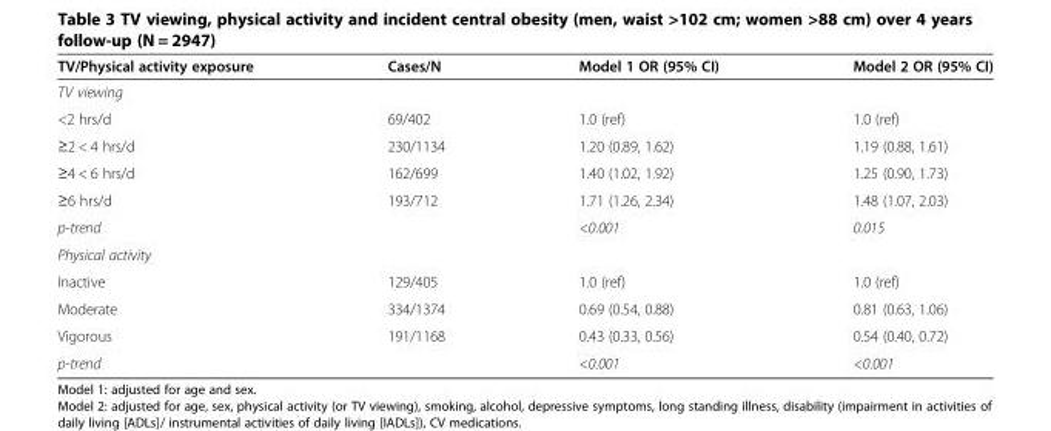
<table><thead><tr><td>TV/Physical activity exposure</td><td>Cases/N</td><td>Model 1 OR (95% CI)</td><td>Model 2 OR (95% CI)</td></tr></thead><tbody><tr><td colspan="4">TV viewing</td></tr><tr><td>&lt;2 hrs/d</td><td>69/402</td><td>1.0 (ref)</td><td>1.0 (ref)</td></tr><tr><td>≥2 &lt; 4 hrs/d</td><td>230/1134</td><td>1.20 (0.89, 1.62)</td><td>1.19 (0.88, 1.61)</td></tr><tr><td>≥4 &lt; 6 hrs/d</td><td>162/699</td><td>1.40 (1.02, 1.92)</td><td>1.25 (0.90, 1.73)</td></tr><tr><td>≥6 hrs/d</td><td>193/712</td><td>1.71 (1.26, 2.34)</td><td>1.48 (1.07, 2.03)</td></tr><tr><td>p-trend</td><td></td><td>&lt;0.001</td><td>0.015</td></tr><tr><td colspan="4">Physical activity</td></tr><tr><td>Inactive</td><td>129/405</td><td>1.0 (ref)</td><td>1.0 (ref)</td></tr><tr><td>Moderate</td><td>334/1374</td><td>0.69 (0.54, 0.88)</td><td>0.81 (0.63, 1.06)</td></tr><tr><td>Vigorous</td><td>191/1168</td><td>0.43 (0.33, 0.56)</td><td>0.54 (0.40, 0.72)</td></tr><tr><td>p-trend</td><td></td><td>&lt;0.001</td><td>&lt;0.001</td></tr></tbody></table>